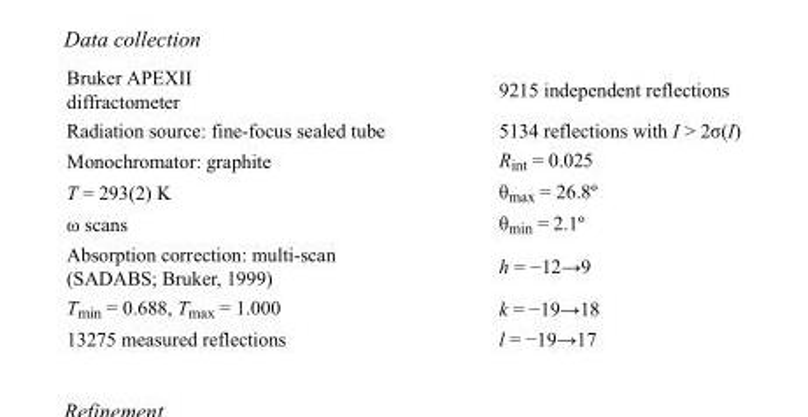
<table><tbody><tr><td>Bruker APEXII diffractometer</td><td>9215 independent reflections</td></tr><tr><td>Radiation source: fine-focus sealed tube</td><td>5134 reflections with I &gt; 2σ(I)</td></tr><tr><td>Monochromator: graphite</td><td>R<sub>int</sub> = 0.025</td></tr><tr><td>T = 293(2) K</td><td>θ<sub>max</sub> = 26.8º</td></tr><tr><td>ω scans</td><td>θ<sub>min</sub> = 2.1º</td></tr><tr><td>Absorption correction: multi-scan (SADABS; Bruker, 1999)</td><td>h = −12→9</td></tr><tr><td>T<sub>min</sub> = 0.688, T<sub>max</sub> = 1.000</td><td>k = −19→18</td></tr><tr><td>13275 measured reflections</td><td>l = −19→17</td></tr></tbody></table>